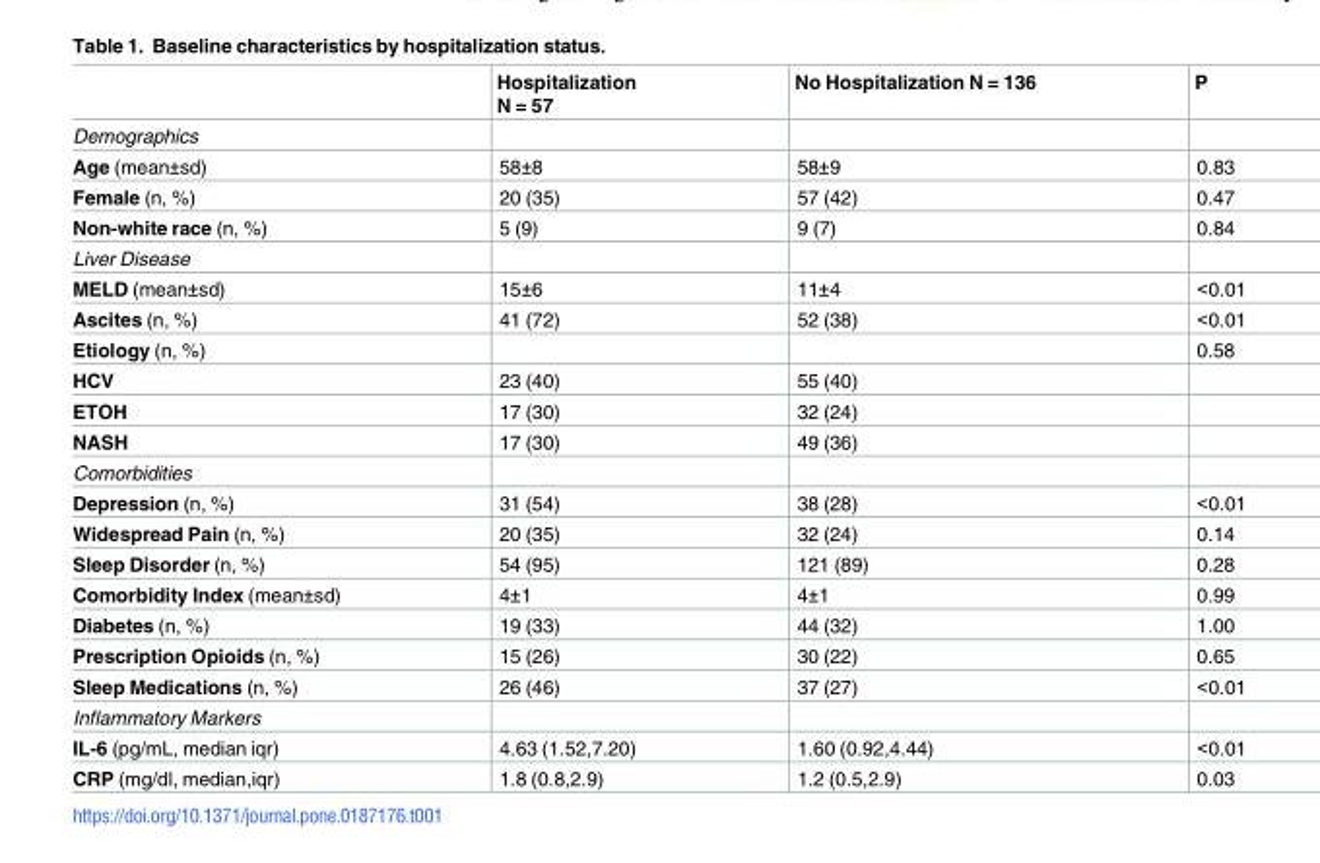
<table><thead><tr><td></td><td>Hospitalization N = 57</td><td>No Hospitalization N = 136</td><td>P</td></tr></thead><tbody><tr><td colspan="4">Demographics</td></tr><tr><td>Age (mean±sd)</td><td>58±8</td><td>58±9</td><td>0.83</td></tr><tr><td>Female (n, %)</td><td>20 (35)</td><td>57 (42)</td><td>0.47</td></tr><tr><td>Non-white race (n, %)</td><td>5 (9)</td><td>9 (7)</td><td>0.84</td></tr><tr><td colspan="4">Liver Disease</td></tr><tr><td>MELD (mean±sd)</td><td>15±6</td><td>11±4</td><td>&lt;0.01</td></tr><tr><td>Ascites (n, %)</td><td>41 (72)</td><td>52 (38)</td><td>&lt;0.01</td></tr><tr><td>Etiology (n, %)</td><td></td><td></td><td>0.58</td></tr><tr><td>HCV</td><td>23 (40)</td><td>55 (40)</td><td></td></tr><tr><td>ETOH</td><td>17 (30)</td><td>32 (24)</td><td></td></tr><tr><td>NASH</td><td>17 (30)</td><td>49 (36)</td><td></td></tr><tr><td colspan="4">Comorbidities</td></tr><tr><td>Depression (n, %)</td><td>31 (54)</td><td>38 (28)</td><td>&lt;0.01</td></tr><tr><td>Widespread Pain (n, %)</td><td>20 (35)</td><td>32 (24)</td><td>0.14</td></tr><tr><td>Sleep Disorder (n, %)</td><td>54 (95)</td><td>121 (89)</td><td>0.28</td></tr><tr><td>Comorbidity Index (mean±sd)</td><td>4±1</td><td>4±1</td><td>0.99</td></tr><tr><td>Diabetes (n, %)</td><td>19 (33)</td><td>44 (32)</td><td>1.00</td></tr><tr><td>Prescription Opioids (n, %)</td><td>15 (26)</td><td>30 (22)</td><td>0.65</td></tr><tr><td>Sleep Medications (n, %)</td><td>26 (46)</td><td>37 (27)</td><td>&lt;0.01</td></tr><tr><td colspan="4">Inflammatory Markers</td></tr><tr><td>IL-6 (pg/mL, median iqr)</td><td>4.63 (1.52,7.20)</td><td>1.60 (0.92,4.44)</td><td>&lt;0.01</td></tr><tr><td>CRP (mg/dl, median,iqr)</td><td>1.8 (0.8,2.9)</td><td>1.2 (0.5,2.9)</td><td>0.03</td></tr></tbody></table>